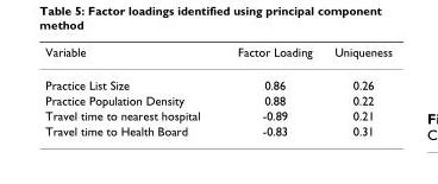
<table><thead><tr><td>Variable</td><td>Factor Loading</td><td>Uniqueness</td></tr></thead><tbody><tr><td>Practice List Size</td><td>0.86</td><td>0.26</td></tr><tr><td>Practice Population Density</td><td>0.88</td><td>0.22</td></tr><tr><td>Travel time to nearest hospital</td><td>-0.89</td><td>0.21</td></tr><tr><td>Travel time to Health Board</td><td>-0.83</td><td>0.31</td></tr></tbody></table>